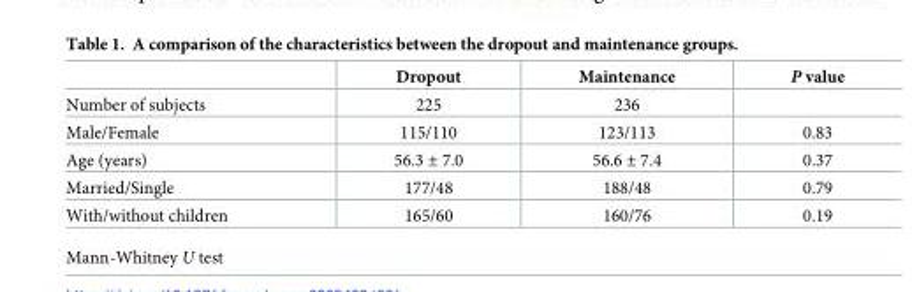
<table><thead><tr><td></td><td>Dropout</td><td>Maintenance</td><td>P value</td></tr></thead><tbody><tr><td>Number of subjects</td><td>225</td><td>236</td><td></td></tr><tr><td>Male/Female</td><td>115/110</td><td>123/113</td><td>0.83</td></tr><tr><td>Age (years)</td><td>56.3 ± 7.0</td><td>56.6 ± 7.4</td><td>0.37</td></tr><tr><td>Married/Single</td><td>177/48</td><td>188/48</td><td>0.79</td></tr><tr><td>With/without children</td><td>165/60</td><td>160/76</td><td>0.19</td></tr></tbody></table>